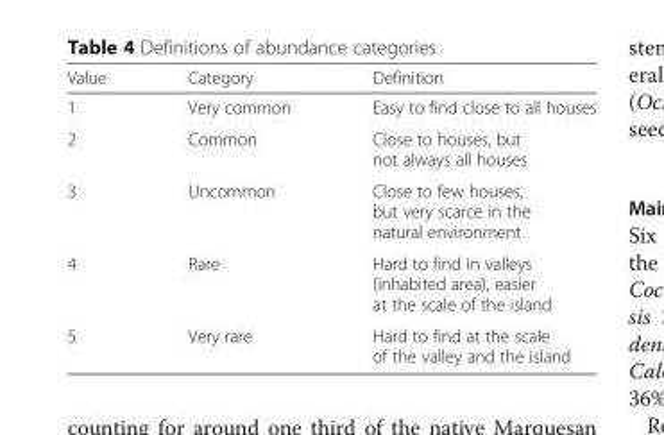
<table><thead><tr><td>Value</td><td>Category</td><td>Definition</td></tr></thead><tbody><tr><td>1</td><td>Very common</td><td>Easy to find close to all houses</td></tr><tr><td>2</td><td>Common</td><td>Close to houses, but not always all houses</td></tr><tr><td>3</td><td>Uncommon</td><td>Close to few houses, but very scarce in the natural environment</td></tr><tr><td>4</td><td>Rare</td><td>Hard to find in valleys (inhabited area), easier at the scale of the island</td></tr><tr><td>5</td><td>Very rare</td><td>Hard to find at the scale of the valley and the island</td></tr></tbody></table>